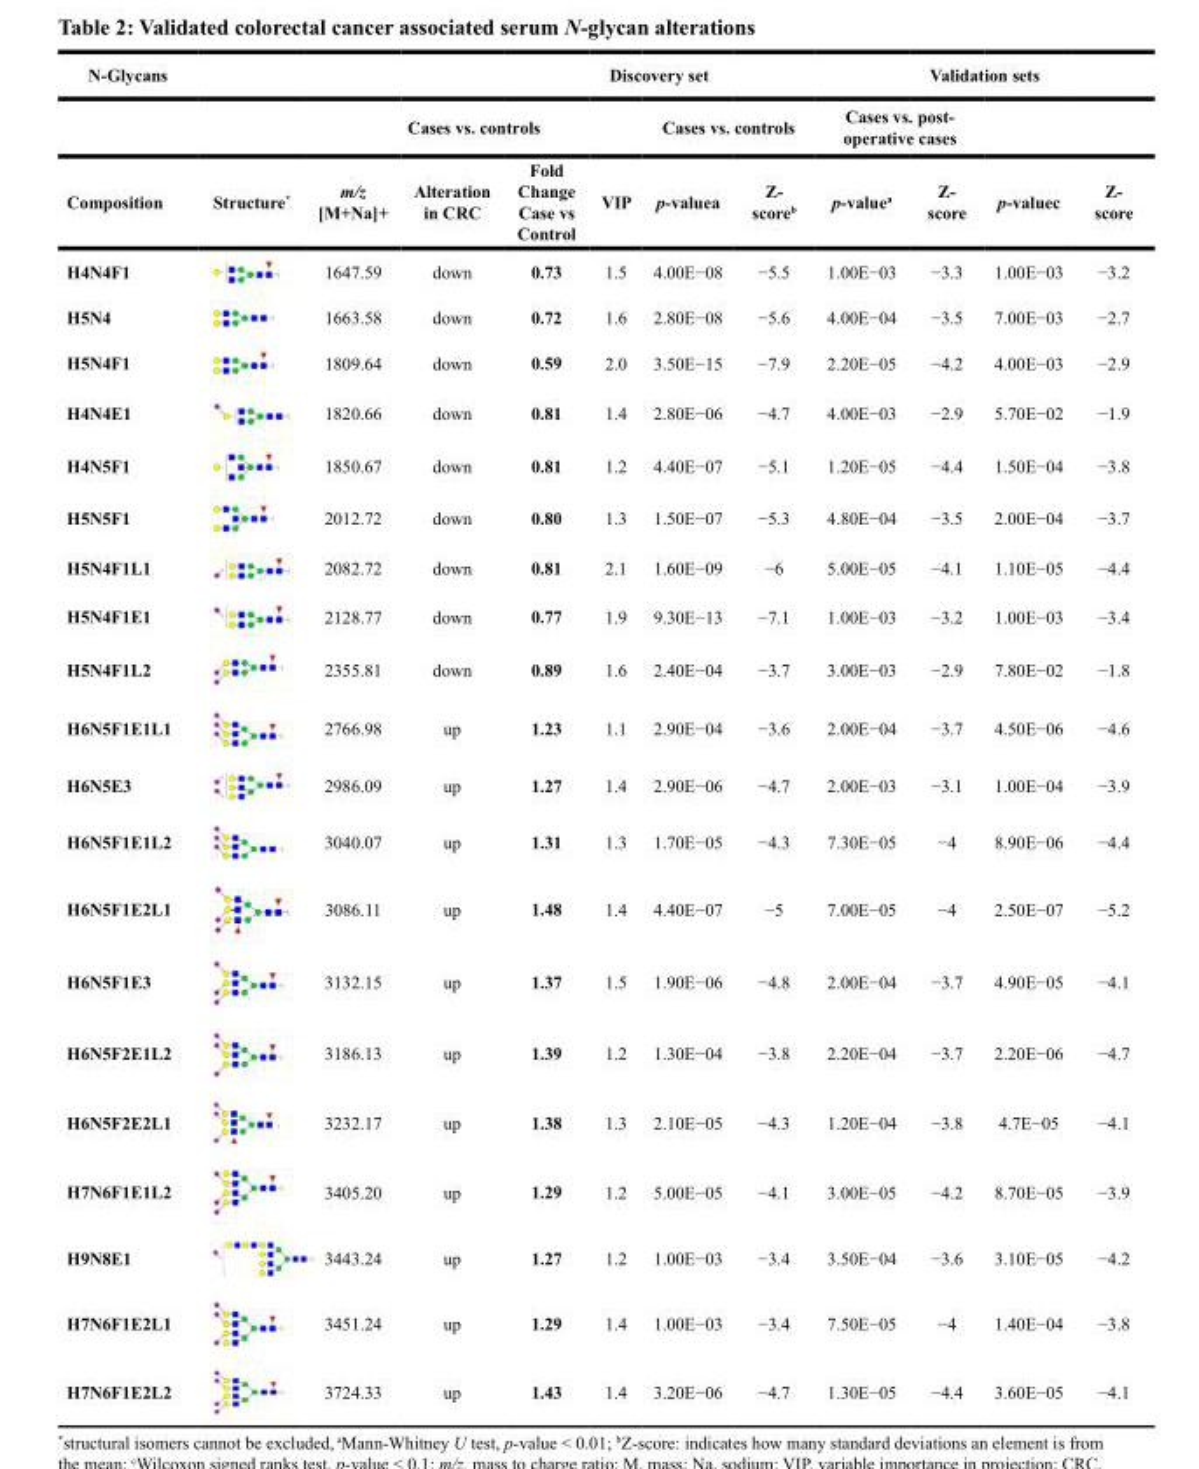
<table><thead><tr><td rowspan="3">N-Glycans Composition</td><td rowspan="3">Structure*</td><td></td><td></td><td colspan="4">Discovery set</td><td colspan="4">Validation sets</td></tr><tr><td colspan="4">Cases vs. controls</td><td colspan="2">Cases vs. controls</td><td colspan="2">Cases vs. post- operative cases</td><td rowspan="2">p-valuec</td><td rowspan="2">Z- score</td></tr><tr><td>m/z [M+Na]+</td><td>Alteration in CRC</td><td>Fold Change Case vs Control</td><td>VIP</td><td>p-valuea</td><td>Z- score<sup>b</sup></td><td>p-value<sup>a</sup></td><td>Z- score</td></tr></thead><tbody><tr><td>H4N4F1</td><td></td><td>1647.59</td><td>down</td><td>0.73</td><td>1.5</td><td>4.00E−08</td><td>−5.5</td><td>1.00E−03</td><td>−3.3</td><td>1.00E−03</td><td>−3.2</td></tr><tr><td>H5N4</td><td></td><td>1663.58</td><td>down</td><td>0.72</td><td>1.6</td><td>2.80E−08</td><td>−5.6</td><td>4.00E−04</td><td>−3.5</td><td>7.00E−03</td><td>−2.7</td></tr><tr><td>H5N4F1</td><td></td><td>1809.64</td><td>down</td><td>0.59</td><td>2.0</td><td>3.50E−15</td><td>−7.9</td><td>2.20E−05</td><td>−4.2</td><td>4.00E−03</td><td>−2.9</td></tr><tr><td>H4N4E1</td><td></td><td>1820.66</td><td>down</td><td>0.81</td><td>1.4</td><td>2.80E−06</td><td>−4.7</td><td>4.00E−03</td><td>−2.9</td><td>5.70E−02</td><td>−1.9</td></tr><tr><td>H4N5F1</td><td></td><td>1850.67</td><td>down</td><td>0.81</td><td>1.2</td><td>4.40E−07</td><td>−5.1</td><td>1.20E−05</td><td>−4.4</td><td>1.50E−04</td><td>−3.8</td></tr><tr><td>H5N5F1</td><td></td><td>2012.72</td><td>down</td><td>0.80</td><td>1.3</td><td>1.50E−07</td><td>−5.3</td><td>4.80E−04</td><td>−3.5</td><td>2.00E−04</td><td>−3.7</td></tr><tr><td>H5N4F1L1</td><td></td><td>2082.72</td><td>down</td><td>0.81</td><td>2.1</td><td>1.60E−09</td><td>−6</td><td>5.00E−05</td><td>−4.1</td><td>1.10E−05</td><td>−4.4</td></tr><tr><td>H5N4F1E1</td><td></td><td>2128.77</td><td>down</td><td>0.77</td><td>1.9</td><td>9.30E−13</td><td>−7.1</td><td>1.00E−03</td><td>−3.2</td><td>1.00E−03</td><td>−3.4</td></tr><tr><td>H5N4F1L2</td><td></td><td>2355.81</td><td>down</td><td>0.89</td><td>1.6</td><td>2.40E−04</td><td>−3.7</td><td>3.00E−03</td><td>−2.9</td><td>7.80E−02</td><td>−1.8</td></tr><tr><td>H6N5F1E1L1</td><td></td><td>2766.98</td><td>up</td><td>1.23</td><td>1.1</td><td>2.90E−04</td><td>−3.6</td><td>2.00E−04</td><td>−3.7</td><td>4.50E−06</td><td>−4.6</td></tr><tr><td>H6N5E3</td><td></td><td>2986.09</td><td>up</td><td>1.27</td><td>1.4</td><td>2.90E−06</td><td>−4.7</td><td>2.00E−03</td><td>−3.1</td><td>1.00E−04</td><td>−3.9</td></tr><tr><td>H6N5F1E1L2</td><td></td><td>3040.07</td><td>up</td><td>1.31</td><td>1.3</td><td>1.70E−05</td><td>−4.3</td><td>7.30E−05</td><td>−4</td><td>8.90E−06</td><td>−4.4</td></tr><tr><td>H6N5F1E2L1</td><td></td><td>3086.11</td><td>up</td><td>1.48</td><td>1.4</td><td>4.40E−07</td><td>−5</td><td>7.00E−05</td><td>−4</td><td>2.50E−07</td><td>−5.2</td></tr><tr><td>H6N5F1E3</td><td></td><td>3132.15</td><td>up</td><td>1.37</td><td>1.5</td><td>1.90E−06</td><td>−4.8</td><td>2.00E−04</td><td>−3.7</td><td>4.90E−05</td><td>−4.1</td></tr><tr><td>H6N5F2E1L2</td><td></td><td>3186.13</td><td>up</td><td>1.39</td><td>1.2</td><td>1.30E−04</td><td>−3.8</td><td>2.20E−04</td><td>−3.7</td><td>2.20E−06</td><td>−4.7</td></tr><tr><td>H6N5F2E2L1</td><td></td><td>3232.17</td><td>up</td><td>1.38</td><td>1.3</td><td>2.10E−05</td><td>−4.3</td><td>1.20E−04</td><td>−3.8</td><td>4.7E−05</td><td>−4.1</td></tr><tr><td>H7N6F1E1L2</td><td></td><td>3405.20</td><td>up</td><td>1.29</td><td>1.2</td><td>5.00E−05</td><td>−4.1</td><td>3.00E−05</td><td>−4.2</td><td>8.70E−05</td><td>−3.9</td></tr><tr><td>H9N8E1</td><td></td><td>3443.24</td><td>up</td><td>1.27</td><td>1.2</td><td>1.00E−03</td><td>−3.4</td><td>3.50E−04</td><td>−3.6</td><td>3.10E−05</td><td>−4.2</td></tr><tr><td>H7N6F1E2L1</td><td></td><td>3451.24</td><td>up</td><td>1.29</td><td>1.4</td><td>1.00E−03</td><td>−3.4</td><td>7.50E−05</td><td>−4</td><td>1.40E−04</td><td>−3.8</td></tr><tr><td>H7N6F1E2L2</td><td></td><td>3724.33</td><td>up</td><td>1.43</td><td>1.4</td><td>3.20E−06</td><td>−4.7</td><td>1.30E−05</td><td>−4.4</td><td>3.60E−05</td><td>−4.1</td></tr></tbody></table>